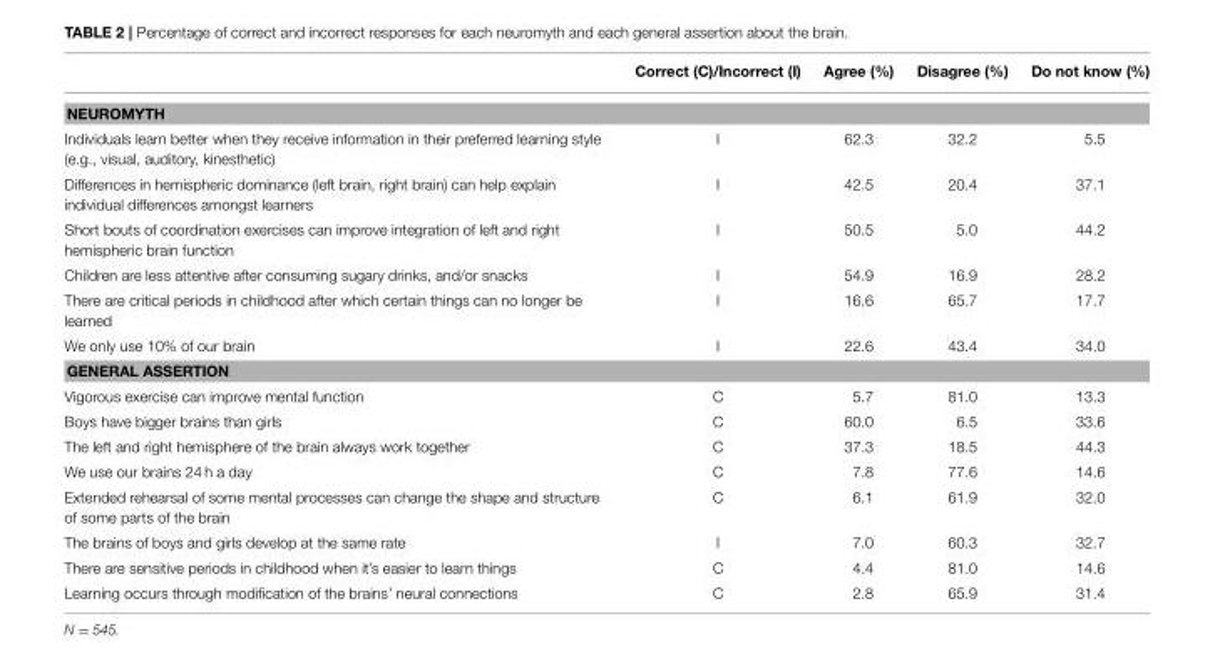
<table><thead><tr><td></td><td>Correct (C)/Incorrect (I)</td><td>Agree (%)</td><td>Disagree (%)</td><td>Do not know (%)</td></tr></thead><tbody><tr><td colspan="5">NEUROMYTH</td></tr><tr><td>Individuals learn better when they receive information in their preferred learning style (e.g., visual, auditory, kinesthetic)</td><td>I</td><td>62.3</td><td>32.2</td><td>5.5</td></tr><tr><td>Differences in hemispheric dominance (left brain, right brain) can help explain individual differences amongst learners</td><td>I</td><td>42.5</td><td>20.4</td><td>37.1</td></tr><tr><td>Short bouts of coordination exercises can improve integration of left and right hemispheric brain function</td><td>I</td><td>50.5</td><td>5.0</td><td>44.2</td></tr><tr><td>Children are less attentive after consuming sugary drinks, and/or snacks</td><td>I</td><td>54.9</td><td>16.9</td><td>28.2</td></tr><tr><td>There are critical periods in childhood after which certain things can no longer be learned</td><td>I</td><td>16.6</td><td>65.7</td><td>17.7</td></tr><tr><td>We only use 10% of our brain</td><td>I</td><td>22.6</td><td>43.4</td><td>34.0</td></tr><tr><td colspan="5">GENERAL ASSERTION</td></tr><tr><td>Vigorous exercise can improve mental function</td><td>C</td><td>5.7</td><td>81.0</td><td>13.3</td></tr><tr><td>Boys have bigger brains than girls</td><td>C</td><td>60.0</td><td>6.5</td><td>33.6</td></tr><tr><td>The left and right hemisphere of the brain always work together</td><td>C</td><td>37.3</td><td>18.5</td><td>44.3</td></tr><tr><td>We use our brains 24 h a day</td><td>C</td><td>7.8</td><td>77.6</td><td>14.6</td></tr><tr><td>Extended rehearsal of some mental processes can change the shape and structure of some parts of the brain</td><td>C</td><td>6.1</td><td>61.9</td><td>32.0</td></tr><tr><td>The brains of boys and girls develop at the same rate</td><td>I</td><td>7.0</td><td>60.3</td><td>32.7</td></tr><tr><td>There are sensitive periods in childhood when it’s easier to learn things</td><td>C</td><td>4.4</td><td>81.0</td><td>14.6</td></tr><tr><td>Learning occurs through modification of the brains’ neural connections</td><td>C</td><td>2.8</td><td>65.9</td><td>31.4</td></tr></tbody></table>